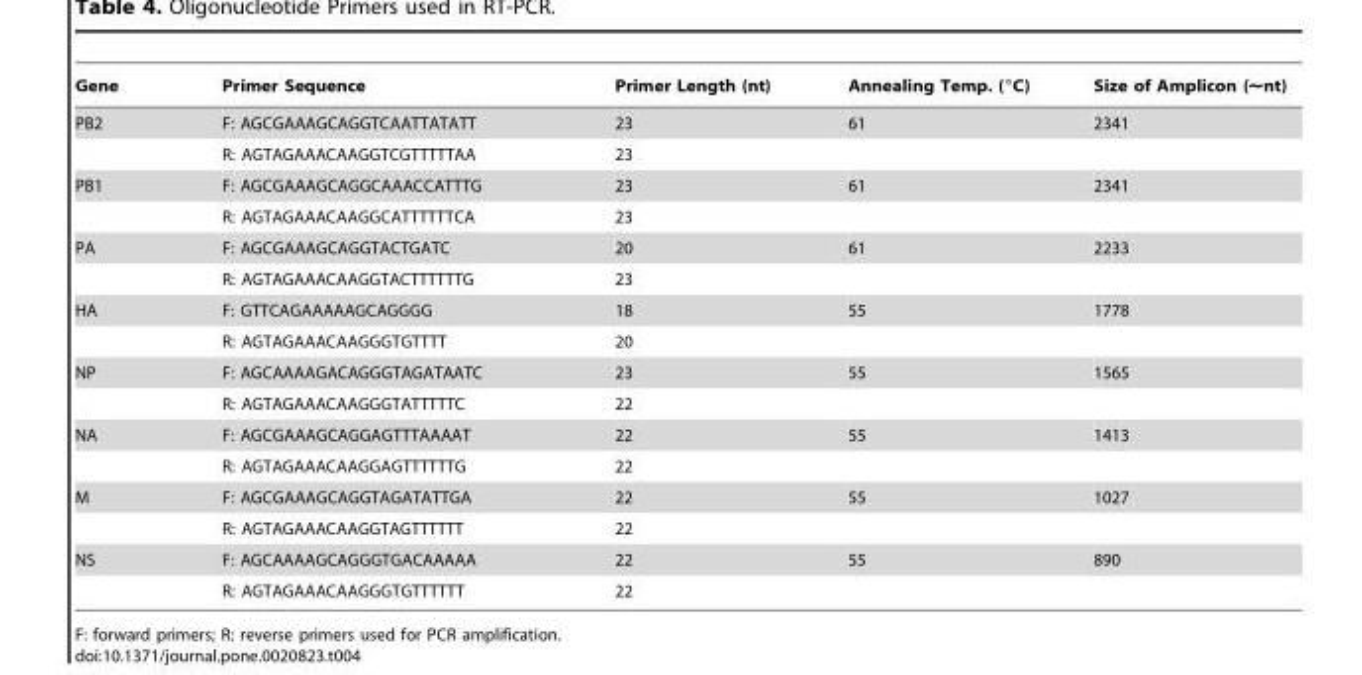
<table><thead><tr><td>Gene</td><td>Primer Sequence</td><td>Primer Length (nt)</td><td>Annealing Temp. (°C)</td><td>Size of Amplicon (∼nt)</td></tr></thead><tbody><tr><td rowspan="2">PB2</td><td>F: AGCGAAAGCAGGTCAATTATATT</td><td>23</td><td>61</td><td>2341</td></tr><tr><td>R: AGTAGAAACAAGGTCGTTTTTAA</td><td>23</td><td></td><td></td></tr><tr><td rowspan="2">PB1</td><td>F: AGCGAAAGCAGGCAAACCATTTG</td><td>23</td><td>61</td><td>2341</td></tr><tr><td>R: AGTAGAAACAAGGCATTTTTTCA</td><td>23</td><td></td><td></td></tr><tr><td rowspan="2">PA</td><td>F: AGCGAAAGCAGGTACTGATC</td><td>20</td><td>61</td><td>2233</td></tr><tr><td>R: AGTAGAAACAAGGTACTTTTTTG</td><td>23</td><td></td><td></td></tr><tr><td rowspan="2">HA</td><td>F: GTTCAGAAAAAGCAGGGG</td><td>18</td><td>55</td><td>1778</td></tr><tr><td>R: AGTAGAAACAAGGGTGTTTT</td><td>20</td><td></td><td></td></tr><tr><td rowspan="2">NP</td><td>F: AGCAAAAGACAGGGTAGATAATC</td><td>23</td><td>55</td><td>1565</td></tr><tr><td>R: AGTAGAAACAAGGGTATTTTTC</td><td>22</td><td></td><td></td></tr><tr><td rowspan="2">NA</td><td>F: AGCGAAAGCAGGAGTTTAAAAT</td><td>22</td><td>55</td><td>1413</td></tr><tr><td>R: AGTAGAAACAAGGAGTTTTTTG</td><td>22</td><td></td><td></td></tr><tr><td rowspan="2">M</td><td>F: AGCGAAAGCAGGTAGATATTGA</td><td>22</td><td>55</td><td>1027</td></tr><tr><td>R: AGTAGAAACAAGGTAGTTTTTT</td><td>22</td><td></td><td></td></tr><tr><td rowspan="2">NS</td><td>F: AGCAAAAGCAGGGTGACAAAAA</td><td>22</td><td>55</td><td>890</td></tr><tr><td>R: AGTAGAAACAAGGGTGTTTTTT</td><td>22</td><td></td><td></td></tr></tbody></table>